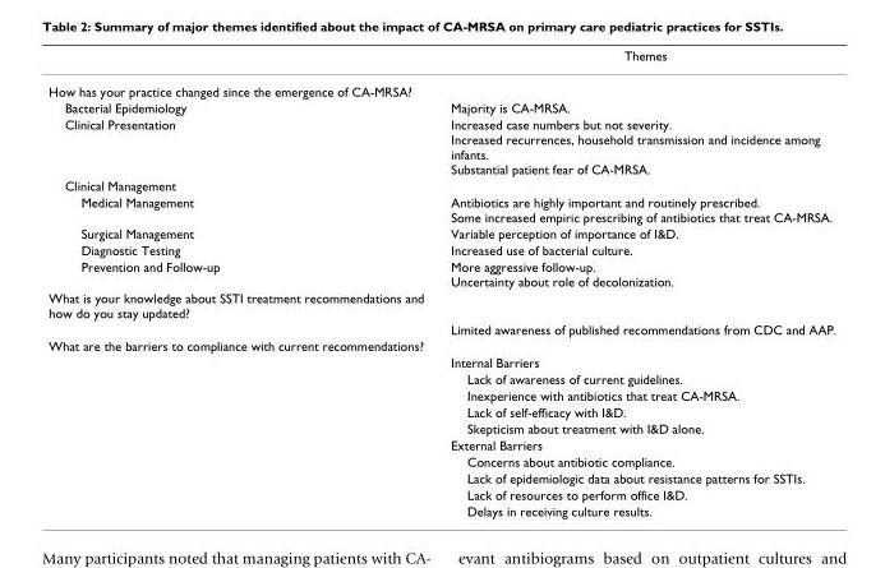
<table><thead><tr><td></td><td>Themes</td></tr></thead><tbody><tr><td colspan="2">How has your practice changed since the emergence of CA-MRSA?</td></tr><tr><td>Bacterial Epidemiology</td><td>Majority is CA-MRSA.</td></tr><tr><td>Clinical Presentation</td><td>Increased case numbers but not severity. Increased recurrences, household transmission and incidence among infants. Substantial patient fear of CA-MRSA.</td></tr><tr><td colspan="2">Clinical Management</td></tr><tr><td>Medical Management</td><td>Antibiotics are highly important and routinely prescribed. Some increased empiric prescribing of antibiotics that treat CA-MRSA.</td></tr><tr><td>Surgical Management</td><td>Variable perception of importance of I&amp;D.</td></tr><tr><td>Diagnostic Testing</td><td>Increased use of bacterial culture.</td></tr><tr><td>Prevention and Follow-up</td><td>More aggressive follow-up. Uncertainty about role of decolonization.</td></tr><tr><td colspan="2">What is your knowledge about SSTI treatment recommendations and how do you stay updated?</td></tr><tr><td></td><td>Limited awareness of published recommendations from CDC and AAP.</td></tr><tr><td colspan="2">What are the barriers to compliance with current recommendations?</td></tr><tr><td></td><td>Internal Barriers</td></tr><tr><td></td><td>Lack of awareness of current guidelines.</td></tr><tr><td></td><td>Inexperience with antibiotics that treat CA-MRSA.</td></tr><tr><td></td><td>Lack of self-efficacy with I&amp;D.</td></tr><tr><td></td><td>Skepticism about treatment with I&amp;D alone.</td></tr><tr><td></td><td>External Barriers</td></tr><tr><td></td><td>Concerns about antibiotic compliance.</td></tr><tr><td></td><td>Lack of epidemiologic data about resistance patterns for SSTIs.</td></tr><tr><td></td><td>Lack of resources to perform office I&amp;D.</td></tr><tr><td></td><td>Delays in receiving culture results.</td></tr></tbody></table>